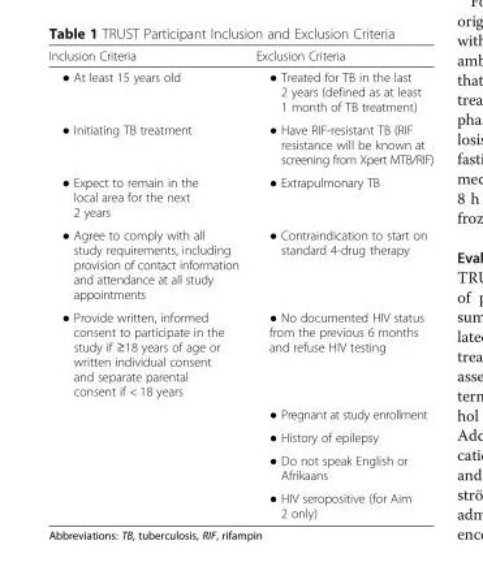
<table><thead><tr><td>Inclusion Criteria</td><td>Exclusion Criteria</td></tr></thead><tbody><tr><td>● At least 15 years old</td><td>● Treated for TB in the last 2 years (defined as at least 1 month of TB treatment)</td></tr><tr><td>● Initiating TB treatment</td><td>● Have RIF-resistant TB (RIF resistance will be known at screening from Xpert MTB/RIF)</td></tr><tr><td>● Expect to remain in the local area for the next 2 years</td><td>● Extrapulmonary TB</td></tr><tr><td>● Agree to comply with all study requirements, including provision of contact information and attendance at all study appointments</td><td>● Contraindication to start on standard 4-drug therapy</td></tr><tr><td rowspan="5">● Provide written, informed consent to participate in the study if ≥18 years of age or written individual consent and separate parental consent if &lt; 18 years</td><td>● No documented HIV status from the previous 6 months and refuse HIV testing</td></tr><tr><td>● Pregnant at study enrollment</td></tr><tr><td>● History of epilepsy</td></tr><tr><td>● Do not speak English or Afrikaans</td></tr><tr><td>● HIV seropositive (for Aim 2 only)</td></tr></tbody></table>